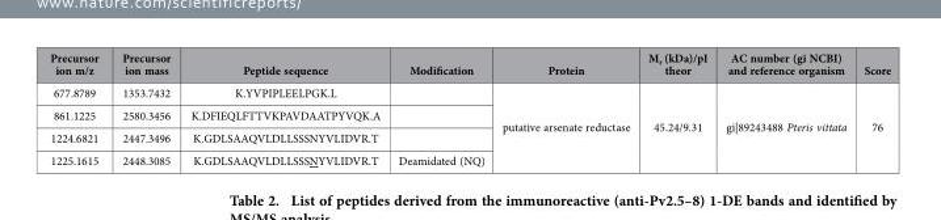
<table><thead><tr><td>Precursor ion m/z</td><td>Precursor ion mass</td><td>Peptide sequence</td><td>Modification</td><td>Protein</td><td>M<sub>r</sub> (kDa)/pI theor</td><td>AC number (gi NCBI) and reference organism</td><td>Score</td></tr></thead><tbody><tr><td>677.8789</td><td>1353.7432</td><td>K.YVPIPLEELPGK.L</td><td></td><td rowspan="4">putative arsenate reductase</td><td rowspan="4">45.24/9.31</td><td rowspan="4">gi|89243488 Pteris vittata</td><td rowspan="4">76</td></tr><tr><td>861.1225</td><td>2580.3456</td><td>K.DFIEQLFTTVKPAVDAATPYVQK.A</td><td></td></tr><tr><td>1224.6821</td><td>2447.3496</td><td>K.GDLSAAQVLDLLSSSNYVLIDVR.T</td><td></td></tr><tr><td>1225.1615</td><td>2448.3085</td><td>K.GDLSAAQVLDLLSSSNYVLIDVR.T</td><td>Deamidated (NQ)</td></tr></tbody></table>